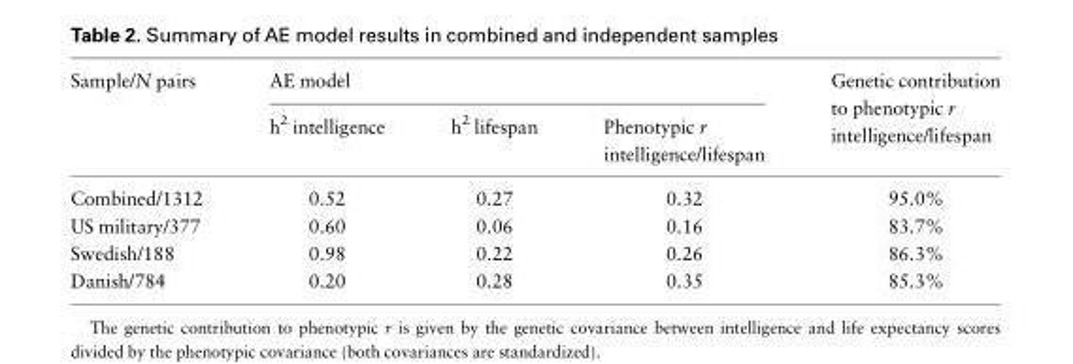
<table><thead><tr><td rowspan="2">Sample/N pairs</td><td colspan="3">AE model</td><td rowspan="2">Genetic contribution to phenotypic r intelligence/lifespan</td></tr><tr><td>h<sup>2</sup> intelligence</td><td>h<sup>2</sup> lifespan</td><td>Phenotypic r intelligence/lifespan</td></tr></thead><tbody><tr><td>Combined/1312</td><td>0.52</td><td>0.27</td><td>0.32</td><td>95.0%</td></tr><tr><td>US military/377</td><td>0.60</td><td>0.06</td><td>0.16</td><td>83.7%</td></tr><tr><td>Swedish/188</td><td>0.98</td><td>0.22</td><td>0.26</td><td>86.3%</td></tr><tr><td>Danish/784</td><td>0.20</td><td>0.28</td><td>0.35</td><td>85.3%</td></tr></tbody></table>